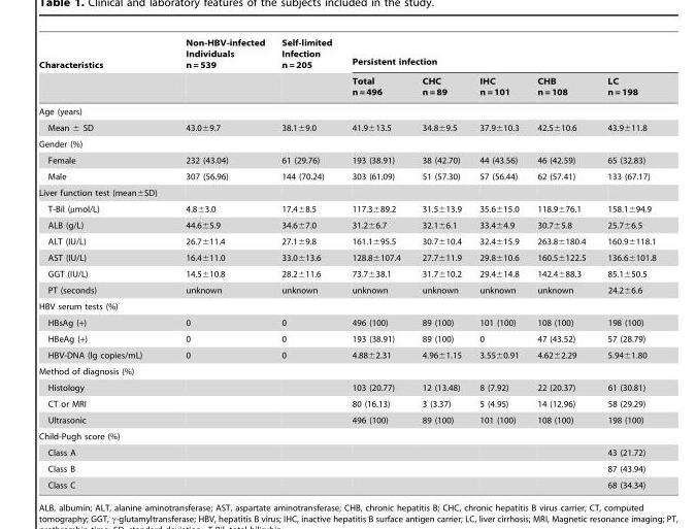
<table><thead><tr><td rowspan="2">Characteristics</td><td rowspan="2">Non-HBV-infected Individuals n = 539</td><td rowspan="2">Self-limited Infection n = 205</td><td colspan="5">Persistent infection</td></tr><tr><td>Total n = 496</td><td>CHC n = 89</td><td>IHC n = 101</td><td>CHB n = 108</td><td>LC n = 198</td></tr></thead><tbody><tr><td colspan="8">Age (years)</td></tr><tr><td>Mean ± SD</td><td>43.0±9.7</td><td>38.1±9.0</td><td>41.9±13.5</td><td>34.8±9.5</td><td>37.9±10.3</td><td>42.5±10.6</td><td>43.9±11.8</td></tr><tr><td colspan="8">Gender (%)</td></tr><tr><td>Female</td><td>232 (43.04)</td><td>61 (29.76)</td><td>193 (38.91)</td><td>38 (42.70)</td><td>44 (43.56)</td><td>46 (42.59)</td><td>65 (32.83)</td></tr><tr><td>Male</td><td>307 (56.96)</td><td>144 (70.24)</td><td>303 (61.09)</td><td>51 (57.30)</td><td>57 (56.44)</td><td>62 (57.41)</td><td>133 (67.17)</td></tr><tr><td colspan="8">Liver function test (mean±SD)</td></tr><tr><td>T-Bil (µmol/L)</td><td>4.8±3.0</td><td>17.4±8.5</td><td>117.3±89.2</td><td>31.5±13.9</td><td>35.6±15.0</td><td>118.9±76.1</td><td>158.1±94.9</td></tr><tr><td>ALB (g/L)</td><td>44.6±5.9</td><td>34.6±7.0</td><td>31.2±6.7</td><td>32.1±6.1</td><td>33.4±4.9</td><td>30.7±5.8</td><td>25.7±6.5</td></tr><tr><td>ALT (IU/L)</td><td>26.7±11.4</td><td>27.1±9.8</td><td>161.1±95.5</td><td>30.7±10.4</td><td>32.4±15.9</td><td>263.8±180.4</td><td>160.9±118.1</td></tr><tr><td>AST (IU/L)</td><td>16.4±11.0</td><td>33.0±13.6</td><td>128.8±107.4</td><td>27.7±11.9</td><td>29.8±10.6</td><td>160.5±122.5</td><td>136.6±101.8</td></tr><tr><td>GGT (IU/L)</td><td>14.5±10.8</td><td>28.2±11.6</td><td>73.7±38.1</td><td>31.7±10.2</td><td>29.4±14.8</td><td>142.4±88.3</td><td>85.1±50.5</td></tr><tr><td>PT (seconds)</td><td>unknown</td><td>unknown</td><td>unknown</td><td>unknown</td><td>unknown</td><td>unknown</td><td>24.2±6.6</td></tr><tr><td colspan="8">HBV serum tests (%)</td></tr><tr><td>HBsAg (+)</td><td>0</td><td>0</td><td>496 (100)</td><td>89 (100)</td><td>101 (100)</td><td>108 (100)</td><td>198 (100)</td></tr><tr><td>HBeAg (+)</td><td>0</td><td>0</td><td>193 (38.91)</td><td>89 (100)</td><td>0</td><td>47 (43.52)</td><td>57 (28.79)</td></tr><tr><td>HBV-DNA (lg copies/mL)</td><td>0</td><td>0</td><td>4.88±2.31</td><td>4.96±1.15</td><td>3.55±0.91</td><td>4.62±2.29</td><td>5.94±1.80</td></tr><tr><td colspan="8">Method of diagnosis (%)</td></tr><tr><td>Histology</td><td></td><td></td><td>103 (20.77)</td><td>12 (13.48)</td><td>8 (7.92)</td><td>22 (20.37)</td><td>61 (30.81)</td></tr><tr><td>CT or MRI</td><td></td><td></td><td>80 (16.13)</td><td>3 (3.37)</td><td>5 (4.95)</td><td>14 (12.96)</td><td>58 (29.29)</td></tr><tr><td>Ultrasonic</td><td></td><td></td><td>496 (100)</td><td>89 (100)</td><td>101 (100)</td><td>108 (100)</td><td>198 (100)</td></tr><tr><td colspan="8">Child-Pugh score (%)</td></tr><tr><td>Class A</td><td></td><td></td><td></td><td></td><td></td><td></td><td>43 (21.72)</td></tr><tr><td>Class B</td><td></td><td></td><td></td><td></td><td></td><td></td><td>87 (43.94)</td></tr><tr><td>Class C</td><td></td><td></td><td></td><td></td><td></td><td></td><td>68 (34.34)</td></tr></tbody></table>